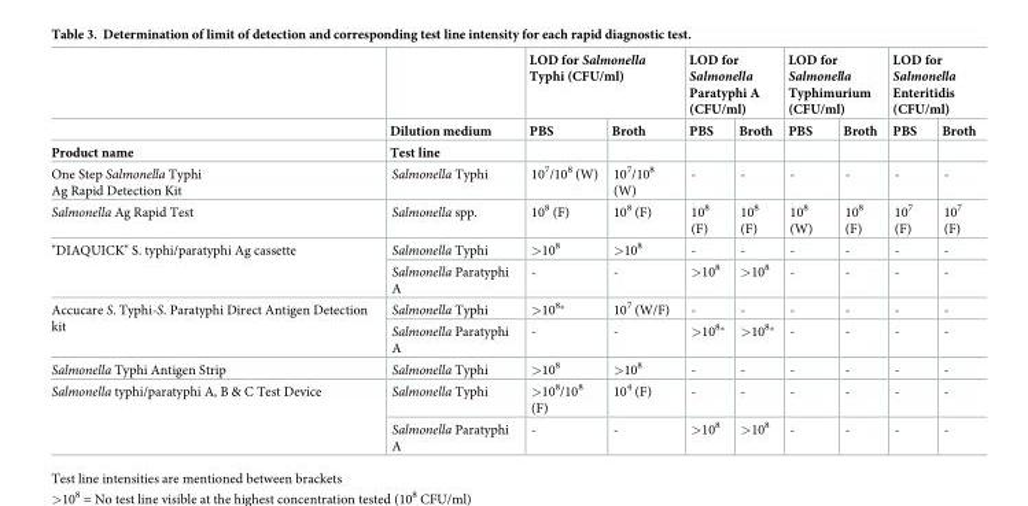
<table><thead><tr><td rowspan="3">Product name</td><td rowspan="3">Dilution medium Test line</td><td colspan="2">LOD for Salmonella Typhi (CFU/ml)</td><td colspan="2">LOD for Salmonella Paratyphi A (CFU/ml)</td><td colspan="2">LOD for Salmonella Typhimurium (CFU/ml)</td><td colspan="2">LOD for Salmonella Enteritidis (CFU/ml)</td></tr><tr><td rowspan="2">PBS</td><td rowspan="2">Broth</td><td rowspan="2">PBS</td><td rowspan="2">Broth</td><td rowspan="2">PBS</td><td rowspan="2">Broth</td><td rowspan="2">PBS</td><td rowspan="2">Broth</td></tr><tr></tr></thead><tbody><tr><td>One Step Salmonella Typhi Ag Rapid Detection Kit</td><td>Salmonella Typhi</td><td>10<sup>7</sup>/10<sup>8</sup> (W)</td><td>10<sup>7</sup>/10<sup>8</sup> (W)</td><td>-</td><td>-</td><td>-</td><td>-</td><td>-</td><td>-</td></tr><tr><td>Salmonella Ag Rapid Test</td><td>Salmonella spp.</td><td>10<sup>8</sup> (F)</td><td>10<sup>8</sup> (F)</td><td>10<sup>8</sup> (F)</td><td>10<sup>8</sup> (F)</td><td>10<sup>8</sup> (W)</td><td>10<sup>8</sup> (F)</td><td>10<sup>7</sup> (F)</td><td>10<sup>7</sup> (F)</td></tr><tr><td rowspan="2">&quot;DIAQUICK&quot; S. typhi/paratyphi Ag cassette</td><td>Salmonella Typhi</td><td>&gt;10<sup>8</sup></td><td>&gt;10<sup>8</sup></td><td>-</td><td>-</td><td>-</td><td>-</td><td>-</td><td>-</td></tr><tr><td>Salmonella Paratyphi A</td><td>-</td><td>-</td><td>&gt;10<sup>8</sup></td><td>&gt;10<sup>8</sup></td><td>-</td><td>-</td><td>-</td><td>-</td></tr><tr><td rowspan="2">Accucare S. Typhi-S. Paratyphi Direct Antigen Detection kit</td><td>Salmonella Typhi</td><td>&gt;10<sup>8</sup>*</td><td>10<sup>7</sup> (W/F)</td><td>-</td><td>-</td><td>-</td><td>-</td><td>-</td><td>-</td></tr><tr><td>Salmonella Paratyphi A</td><td>-</td><td>-</td><td>&gt;10<sup>8</sup>*</td><td>&gt;10<sup>8</sup>*</td><td>-</td><td>-</td><td>-</td><td>-</td></tr><tr><td>Salmonella Typhi Antigen Strip</td><td>Salmonella Typhi</td><td>&gt;10<sup>8</sup></td><td>&gt;10<sup>8</sup></td><td>-</td><td>-</td><td>-</td><td>-</td><td>-</td><td>-</td></tr><tr><td rowspan="2">Salmonella typhi/paratyphi A, B &amp; C Test Device</td><td>Salmonella Typhi</td><td>&gt;10<sup>8</sup>/10<sup>8</sup> (F)</td><td>10<sup>4</sup> (F)</td><td>-</td><td>-</td><td>-</td><td>-</td><td>-</td><td>-</td></tr><tr><td>Salmonella Paratyphi A</td><td>-</td><td>-</td><td>&gt;10<sup>8</sup></td><td>&gt;10<sup>8</sup></td><td>-</td><td>-</td><td>-</td><td>-</td></tr></tbody></table>